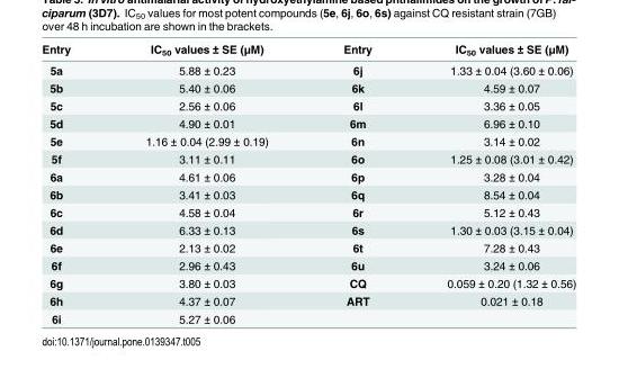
<table><thead><tr><td>Entry</td><td>IC<sub>50</sub> values ± SE (μM)</td><td>Entry</td><td>IC<sub>50</sub> values ± SE (μM)</td></tr></thead><tbody><tr><td>5a</td><td>5.88 ± 0.23</td><td>6j</td><td>1.33 ± 0.04 (3.60 ± 0.06)</td></tr><tr><td>5b</td><td>5.40 ± 0.06</td><td>6k</td><td>4.59 ± 0.07</td></tr><tr><td>5c</td><td>2.56 ± 0.06</td><td>6l</td><td>3.36 ± 0.05</td></tr><tr><td>5d</td><td>4.90 ± 0.01</td><td>6m</td><td>6.96 ± 0.10</td></tr><tr><td>5e</td><td>1.16 ± 0.04 (2.99 ± 0.19)</td><td>6n</td><td>3.14 ± 0.02</td></tr><tr><td>5f</td><td>3.11 ± 0.11</td><td>6o</td><td>1.25 ± 0.08 (3.01 ± 0.42)</td></tr><tr><td>6a</td><td>4.61 ± 0.06</td><td>6p</td><td>3.28 ± 0.04</td></tr><tr><td>6b</td><td>3.41 ± 0.03</td><td>6q</td><td>8.54 ± 0.04</td></tr><tr><td>6c</td><td>4.58 ± 0.04</td><td>6r</td><td>5.12 ± 0.43</td></tr><tr><td>6d</td><td>6.33 ± 0.13</td><td>6s</td><td>1.30 ± 0.03 (3.15 ± 0.04)</td></tr><tr><td>6e</td><td>2.13 ± 0.02</td><td>6t</td><td>7.28 ± 0.43</td></tr><tr><td>6f</td><td>2.96 ± 0.43</td><td>6u</td><td>3.24 ± 0.06</td></tr><tr><td>6g</td><td>3.80 ± 0.03</td><td>CQ</td><td>0.059 ± 0.20 (1.32 ± 0.56)</td></tr><tr><td>6h</td><td>4.37 ± 0.07</td><td>ART</td><td>0.021 ± 0.18</td></tr><tr><td>6i</td><td>5.27 ± 0.06</td><td></td><td></td></tr></tbody></table>